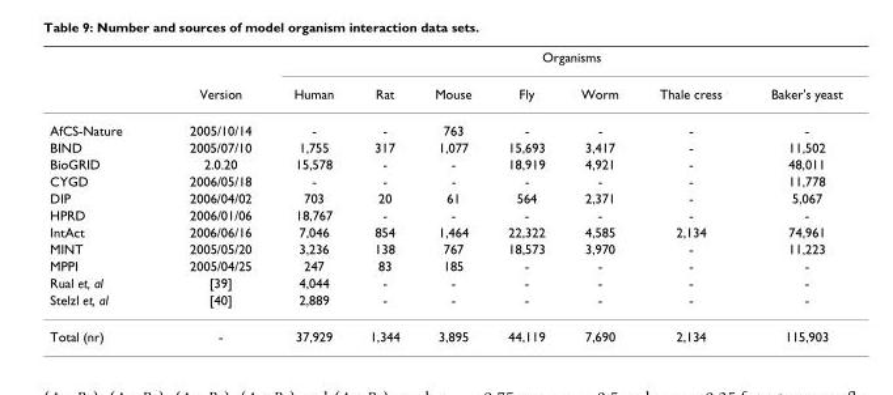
<table><thead><tr><td rowspan="2"></td><td rowspan="2">Version</td><td colspan="7">Organisms</td></tr><tr><td>Human</td><td>Rat</td><td>Mouse</td><td>Fly</td><td>Worm</td><td>Thale cress</td><td>Baker&#x27;s yeast</td></tr></thead><tbody><tr><td>AfCS-Nature</td><td>2005/10/14</td><td>-</td><td>-</td><td>763</td><td>-</td><td>-</td><td>-</td><td>-</td></tr><tr><td>BIND</td><td>2005/07/10</td><td>1,755</td><td>317</td><td>1,077</td><td>15,693</td><td>3,417</td><td>-</td><td>11,502</td></tr><tr><td>BioGRID</td><td>2.0.20</td><td>15,578</td><td>-</td><td>-</td><td>18,919</td><td>4,921</td><td>-</td><td>48,011</td></tr><tr><td>CYGD</td><td>2006/05/18</td><td>-</td><td>-</td><td>-</td><td>-</td><td>-</td><td>-</td><td>11,778</td></tr><tr><td>DIP</td><td>2006/04/02</td><td>703</td><td>20</td><td>61</td><td>564</td><td>2,371</td><td>-</td><td>5,067</td></tr><tr><td>HPRD</td><td>2006/01/06</td><td>18,767</td><td>-</td><td>-</td><td>-</td><td>-</td><td>-</td><td>-</td></tr><tr><td>IntAct</td><td>2006/06/16</td><td>7,046</td><td>854</td><td>1,464</td><td>22,322</td><td>4,585</td><td>2,134</td><td>74,961</td></tr><tr><td>MINT</td><td>2005/05/20</td><td>3,236</td><td>138</td><td>767</td><td>18,573</td><td>3,970</td><td>-</td><td>11,223</td></tr><tr><td>MPPI</td><td>2005/04/25</td><td>247</td><td>83</td><td>185</td><td>-</td><td>-</td><td>-</td><td>-</td></tr><tr><td>Rual et, al</td><td>[39]</td><td>4,044</td><td>-</td><td>-</td><td>-</td><td>-</td><td>-</td><td>-</td></tr><tr><td>Stelzl et, al</td><td>[40]</td><td>2,889</td><td>-</td><td>-</td><td>-</td><td>-</td><td>-</td><td>-</td></tr><tr><td>Total (nr)</td><td>-</td><td>37,929</td><td>1,344</td><td>3,895</td><td>44,119</td><td>7,690</td><td>2,134</td><td>115,903</td></tr></tbody></table>